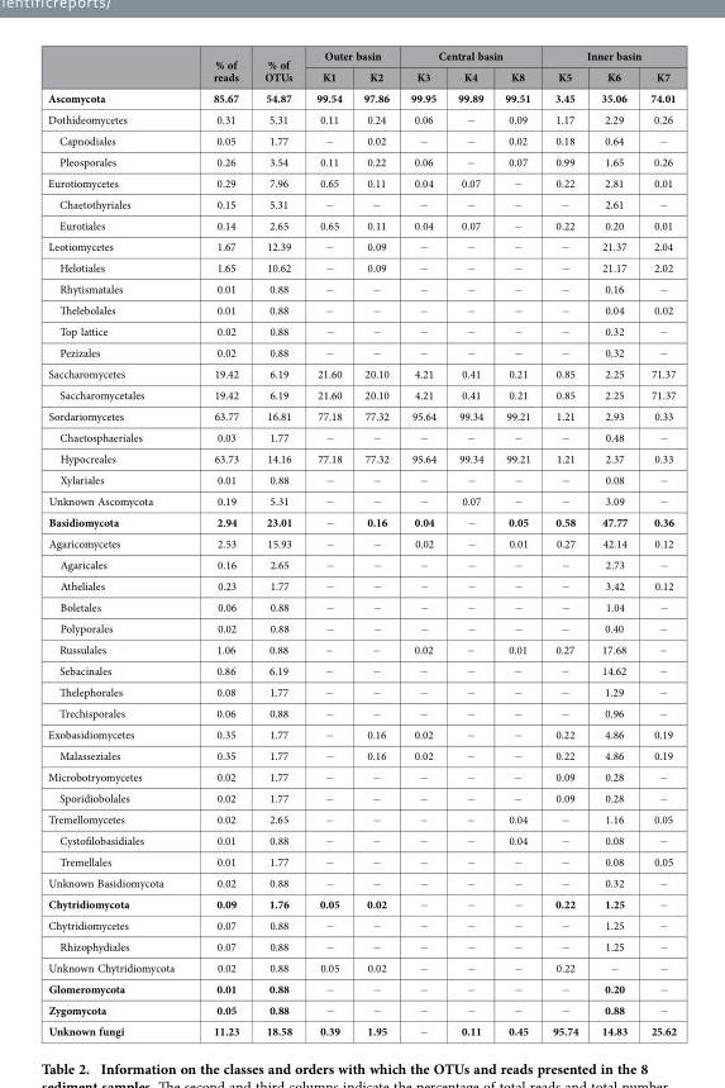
<table><thead><tr><td rowspan="2"></td><td rowspan="2">% of reads</td><td rowspan="2">% of OTUs</td><td colspan="2">Outer basin</td><td colspan="3">Central basin</td><td colspan="3">Inner basin</td></tr><tr><td>K1</td><td>K2</td><td>K3</td><td>K4</td><td>K8</td><td>K5</td><td>K6</td><td>K7</td></tr></thead><tbody><tr><td>Ascomycota</td><td>85.67</td><td>54.87</td><td>99.54</td><td>97.86</td><td>99.95</td><td>99.89</td><td>99.51</td><td>3.45</td><td>35.06</td><td>74.01</td></tr><tr><td>Dothideomycetes</td><td>0.31</td><td>5.31</td><td>0.11</td><td>0.24</td><td>0.06</td><td>−</td><td>0.09</td><td>1.17</td><td>2.29</td><td>0.26</td></tr><tr><td>Capnodiales</td><td>0.05</td><td>1.77</td><td>−</td><td>0.02</td><td>−</td><td>−</td><td>0.02</td><td>0.18</td><td>0.64</td><td>−</td></tr><tr><td>Pleosporales</td><td>0.26</td><td>3.54</td><td>0.11</td><td>0.22</td><td>0.06</td><td>−</td><td>0.07</td><td>0.99</td><td>1.65</td><td>0.26</td></tr><tr><td>Eurotiomycetes</td><td>0.29</td><td>7.96</td><td>0.65</td><td>0.11</td><td>0.04</td><td>0.07</td><td>−</td><td>0.22</td><td>2.81</td><td>0.01</td></tr><tr><td>Chaetothyriales</td><td>0.15</td><td>5.31</td><td>−</td><td>−</td><td>−</td><td>−</td><td>−</td><td>−</td><td>2.61</td><td>−</td></tr><tr><td>Eurotiales</td><td>0.14</td><td>2.65</td><td>0.65</td><td>0.11</td><td>0.04</td><td>0.07</td><td>−</td><td>0.22</td><td>0.20</td><td>0.01</td></tr><tr><td>Leotiomycetes</td><td>1.67</td><td>12.39</td><td>−</td><td>0.09</td><td>−</td><td>−</td><td>−</td><td>−</td><td>21.37</td><td>2.04</td></tr><tr><td>Helotiales</td><td>1.65</td><td>10.62</td><td>−</td><td>0.09</td><td>−</td><td>−</td><td>−</td><td>−</td><td>21.17</td><td>2.02</td></tr><tr><td>Rhytismatales</td><td>0.01</td><td>0.88</td><td>−</td><td>−</td><td>−</td><td>−</td><td>−</td><td>−</td><td>0.16</td><td>−</td></tr><tr><td>Thelebolales</td><td>0.01</td><td>0.88</td><td>−</td><td>−</td><td>−</td><td>−</td><td>−</td><td>−</td><td>0.04</td><td>0.02</td></tr><tr><td>Top lattice</td><td>0.02</td><td>0.88</td><td>−</td><td>−</td><td>−</td><td>−</td><td>−</td><td>−</td><td>0.32</td><td>−</td></tr><tr><td>Pezizales</td><td>0.02</td><td>0.88</td><td>−</td><td>−</td><td>−</td><td>−</td><td>−</td><td>−</td><td>0.32</td><td>−</td></tr><tr><td>Saccharomycetes</td><td>19.42</td><td>6.19</td><td>21.60</td><td>20.10</td><td>4.21</td><td>0.41</td><td>0.21</td><td>0.85</td><td>2.25</td><td>71.37</td></tr><tr><td>Saccharomycetales</td><td>19.42</td><td>6.19</td><td>21.60</td><td>20.10</td><td>4.21</td><td>0.41</td><td>0.21</td><td>0.85</td><td>2.25</td><td>71.37</td></tr><tr><td>Sordariomycetes</td><td>63.77</td><td>16.81</td><td>77.18</td><td>77.32</td><td>95.64</td><td>99.34</td><td>99.21</td><td>1.21</td><td>2.93</td><td>0.33</td></tr><tr><td>Chaetosphaeriales</td><td>0.03</td><td>1.77</td><td>−</td><td>−</td><td>−</td><td>−</td><td>−</td><td>−</td><td>0.48</td><td>−</td></tr><tr><td>Hypocreales</td><td>63.73</td><td>14.16</td><td>77.18</td><td>77.32</td><td>95.64</td><td>99.34</td><td>99.21</td><td>1.21</td><td>2.37</td><td>0.33</td></tr><tr><td>Xylariales</td><td>0.01</td><td>0.88</td><td>−</td><td>−</td><td>−</td><td>−</td><td>−</td><td>−</td><td>0.08</td><td>−</td></tr><tr><td>Unknown Ascomycota</td><td>0.19</td><td>5.31</td><td>−</td><td>−</td><td>−</td><td>0.07</td><td>−</td><td>−</td><td>3.09</td><td>−</td></tr><tr><td>Basidiomycota</td><td>2.94</td><td>23.01</td><td>−</td><td>0.16</td><td>0.04</td><td>−</td><td>0.05</td><td>0.58</td><td>47.77</td><td>0.36</td></tr><tr><td>Agaricomycetes</td><td>2.53</td><td>15.93</td><td>−</td><td>−</td><td>0.02</td><td>−</td><td>0.01</td><td>0.27</td><td>42.14</td><td>0.12</td></tr><tr><td>Agaricales</td><td>0.16</td><td>2.65</td><td>−</td><td>−</td><td>−</td><td>−</td><td>−</td><td>−</td><td>2.73</td><td>−</td></tr><tr><td>Atheliales</td><td>0.23</td><td>1.77</td><td>−</td><td>−</td><td>−</td><td>−</td><td>−</td><td>−</td><td>3.42</td><td>0.12</td></tr><tr><td>Boletales</td><td>0.06</td><td>0.88</td><td>−</td><td>−</td><td>−</td><td>−</td><td>−</td><td>−</td><td>1.04</td><td>−</td></tr><tr><td>Polyporales</td><td>0.02</td><td>0.88</td><td>−</td><td>−</td><td>−</td><td>−</td><td>−</td><td>−</td><td>0.40</td><td>−</td></tr><tr><td>Russulales</td><td>1.06</td><td>0.88</td><td>−</td><td>−</td><td>0.02</td><td>−</td><td>0.01</td><td>0.27</td><td>17.68</td><td>−</td></tr><tr><td>Sebacinales</td><td>0.86</td><td>6.19</td><td>−</td><td>−</td><td>−</td><td>−</td><td>−</td><td>−</td><td>14.62</td><td>−</td></tr><tr><td>Thelephorales</td><td>0.08</td><td>1.77</td><td>−</td><td>−</td><td>−</td><td>−</td><td>−</td><td>−</td><td>1.29</td><td>−</td></tr><tr><td>Trechisporales</td><td>0.06</td><td>0.88</td><td>−</td><td>−</td><td>−</td><td>−</td><td>−</td><td>−</td><td>0.96</td><td>−</td></tr><tr><td>Exobasidiomycetes</td><td>0.35</td><td>1.77</td><td>−</td><td>0.16</td><td>0.02</td><td>−</td><td>−</td><td>0.22</td><td>4.86</td><td>0.19</td></tr><tr><td>Malasseziales</td><td>0.35</td><td>1.77</td><td>−</td><td>0.16</td><td>0.02</td><td>−</td><td>−</td><td>0.22</td><td>4.86</td><td>0.19</td></tr><tr><td>Microbotryomycetes</td><td>0.02</td><td>1.77</td><td>−</td><td>−</td><td>−</td><td>−</td><td>−</td><td>0.09</td><td>0.28</td><td>−</td></tr><tr><td>Sporidiobolales</td><td>0.02</td><td>1.77</td><td>−</td><td>−</td><td>−</td><td>−</td><td>−</td><td>0.09</td><td>0.28</td><td>−</td></tr><tr><td>Tremellomycetes</td><td>0.02</td><td>2.65</td><td>−</td><td>−</td><td>−</td><td>−</td><td>0.04</td><td>−</td><td>1.16</td><td>0.05</td></tr><tr><td>Cystofilobasidiales</td><td>0.01</td><td>0.88</td><td>−</td><td>−</td><td>−</td><td>−</td><td>0.04</td><td>−</td><td>0.08</td><td>−</td></tr><tr><td>Tremellales</td><td>0.01</td><td>1.77</td><td>−</td><td>−</td><td>−</td><td>−</td><td>−</td><td>−</td><td>0.08</td><td>0.05</td></tr><tr><td>Unknown Basidiomycota</td><td>0.02</td><td>0.88</td><td>−</td><td>−</td><td>−</td><td>−</td><td>−</td><td>−</td><td>0.32</td><td>−</td></tr><tr><td>Chytridiomycota</td><td>0.09</td><td>1.76</td><td>0.05</td><td>0.02</td><td>−</td><td>−</td><td>−</td><td>0.22</td><td>1.25</td><td>−</td></tr><tr><td>Chytridiomycetes</td><td>0.07</td><td>0.88</td><td>−</td><td>−</td><td>−</td><td>−</td><td>−</td><td>−</td><td>1.25</td><td>−</td></tr><tr><td>Rhizophydiales</td><td>0.07</td><td>0.88</td><td>−</td><td>−</td><td>−</td><td>−</td><td>−</td><td>−</td><td>1.25</td><td>−</td></tr><tr><td>Unknown Chytridiomycota</td><td>0.02</td><td>0.88</td><td>0.05</td><td>0.02</td><td>−</td><td>−</td><td>−</td><td>0.22</td><td>−</td><td>−</td></tr><tr><td>Glomeromycota</td><td>0.01</td><td>0.88</td><td>−</td><td>−</td><td>−</td><td>−</td><td>−</td><td>−</td><td>0.20</td><td>−</td></tr><tr><td>Zygomycota</td><td>0.05</td><td>0.88</td><td>−</td><td>−</td><td>−</td><td>−</td><td>−</td><td>−</td><td>0.88</td><td>−</td></tr><tr><td>Unknown fungi</td><td>11.23</td><td>18.58</td><td>0.39</td><td>1.95</td><td>−</td><td>0.11</td><td>0.45</td><td>95.74</td><td>14.83</td><td>25.62</td></tr></tbody></table>